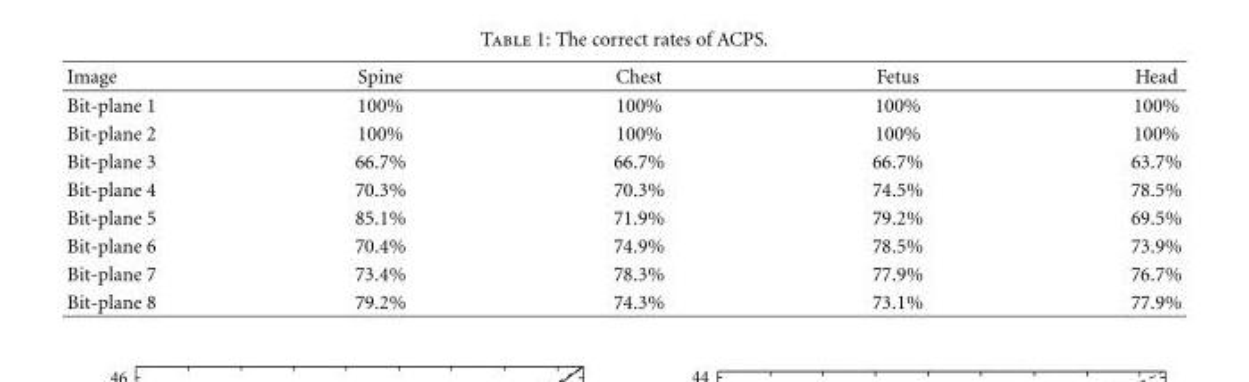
<table><thead><tr><td>Image</td><td>Spine</td><td>Chest</td><td>Fetus</td><td>Head</td></tr></thead><tbody><tr><td>Bit-plane 1</td><td>100%</td><td>100%</td><td>100%</td><td>100%</td></tr><tr><td>Bit-plane 2</td><td>100%</td><td>100%</td><td>100%</td><td>100%</td></tr><tr><td>Bit-plane 3</td><td>66.7%</td><td>66.7%</td><td>66.7%</td><td>63.7%</td></tr><tr><td>Bit-plane 4</td><td>70.3%</td><td>70.3%</td><td>74.5%</td><td>78.5%</td></tr><tr><td>Bit-plane 5</td><td>85.1%</td><td>71.9%</td><td>79.2%</td><td>69.5%</td></tr><tr><td>Bit-plane 6</td><td>70.4%</td><td>74.9%</td><td>78.5%</td><td>73.9%</td></tr><tr><td>Bit-plane 7</td><td>73.4%</td><td>78.3%</td><td>77.9%</td><td>76.7%</td></tr><tr><td>Bit-plane 8</td><td>79.2%</td><td>74.3%</td><td>73.1%</td><td>77.9%</td></tr></tbody></table>